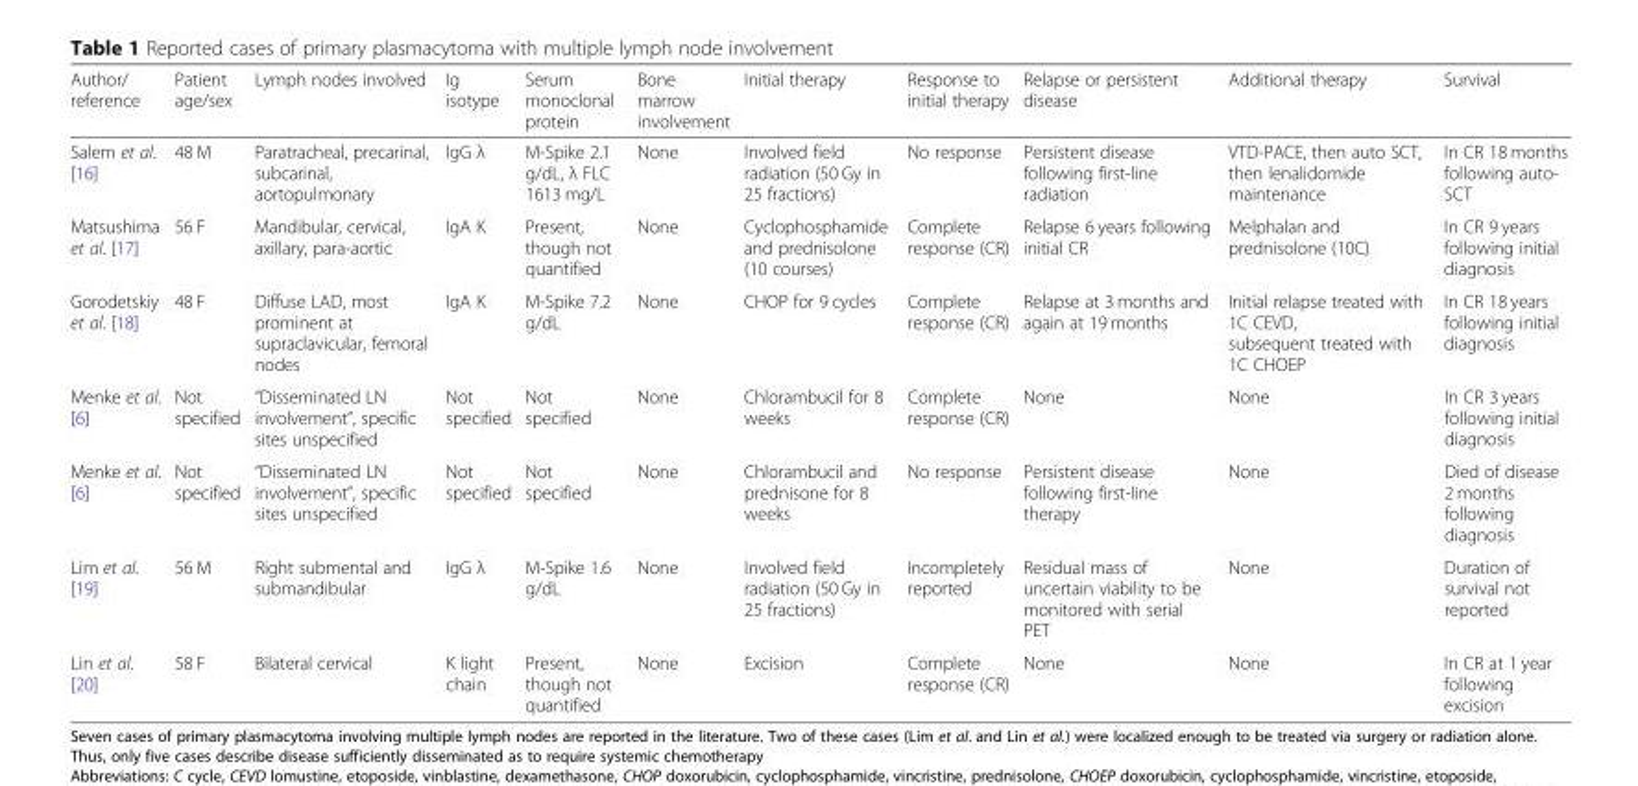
<table><thead><tr><td>Author/ reference</td><td>Patient age/sex</td><td>Lymph nodes involved</td><td>Ig isotype</td><td>Serum monoclonal protein</td><td>Bone marrow involvement</td><td>Initial therapy</td><td>Response to initial therapy</td><td>Relapse or persistent disease</td><td>Additional therapy</td><td>Survival</td></tr></thead><tbody><tr><td>Salem et al. [16]</td><td>48 M</td><td>Paratracheal, precarinal, subcarinal, aortopulmonary</td><td>IgG λ</td><td>M-Spike 2.1 g/dL, λ FLC 1613 mg/L</td><td>None</td><td>Involved field radiation (50 Gy in 25 fractions)</td><td>No response</td><td>Persistent disease following first-line radiation</td><td>VTD-PACE, then auto SCT, then lenalidomide maintenance</td><td>In CR 18 months following auto- SCT</td></tr><tr><td>Matsushima et al. [17]</td><td>56 F</td><td>Mandibular, cervical, axillary, para-aortic</td><td>IgA K</td><td>Present, though not quantified</td><td>None</td><td>Cyclophosphamide and prednisolone (10 courses)</td><td>Complete response (CR)</td><td>Relapse 6 years following initial CR</td><td>Melphalan and prednisolone (10C)</td><td>In CR 9 years following initial diagnosis</td></tr><tr><td>Gorodetskiy et al. [18]</td><td>48 F</td><td>Diffuse LAD, most prominent at supraclavicular, femoral nodes</td><td>IgA K</td><td>M-Spike 7.2 g/dL</td><td>None</td><td>CHOP for 9 cycles</td><td>Complete response (CR)</td><td>Relapse at 3 months and again at 19 months</td><td>Initial relapse treated with 1C CEVD, subsequent treated with 1C CHOEP</td><td>In CR 18 years following initial diagnosis</td></tr><tr><td>Menke et al. [6]</td><td>Not specified</td><td>“Disseminated LN involvement”, specific sites unspecified</td><td>Not specified</td><td>Not specified</td><td>None</td><td>Chlorambucil for 8 weeks</td><td>Complete response (CR)</td><td>None</td><td>None</td><td>In CR 3 years following initial diagnosis</td></tr><tr><td>Menke et al. [6]</td><td>Not specified</td><td>“Disseminated LN involvement”, specific sites unspecified</td><td>Not specified</td><td>Not specified</td><td>None</td><td>Chlorambucil and prednisone for 8 weeks</td><td>No response</td><td>Persistent disease following first-line therapy</td><td>None</td><td>Died of disease 2 months following diagnosis</td></tr><tr><td>Lim et al. [19]</td><td>56 M</td><td>Right submental and submandibular</td><td>IgG λ</td><td>M-Spike 1.6 g/dL</td><td>None</td><td>Involved field radiation (50 Gy in 25 fractions)</td><td>Incompletely reported</td><td>Residual mass of uncertain viability to be monitored with serial PET</td><td>None</td><td>Duration of survival not reported</td></tr><tr><td>Lin et al. [20]</td><td>58 F</td><td>Bilateral cervical</td><td>K light chain</td><td>Present, though not quantified</td><td>None</td><td>Excision</td><td>Complete response (CR)</td><td>None</td><td>None</td><td>In CR at 1 year following excision</td></tr></tbody></table>